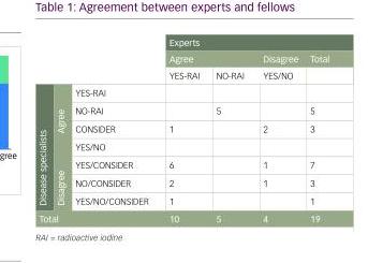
<table><thead><tr><td rowspan="2"></td><td rowspan="2"></td><td rowspan="2"></td><td colspan="4">Experts</td></tr><tr><td colspan="2">Agree</td><td rowspan="2">Disagree YES/NO</td><td rowspan="2">Total</td></tr><tr><td colspan="3"></td><td>YES-RAI</td><td>NO-RAI</td></tr></thead><tbody><tr><td rowspan="7">Disease specialists</td><td rowspan="3">Agree</td><td>YES-RAI</td><td></td><td></td><td></td><td></td></tr><tr><td>NO-RAI</td><td></td><td>5</td><td></td><td>5</td></tr><tr><td>CONSIDER</td><td>1</td><td></td><td>2</td><td>3</td></tr><tr><td rowspan="4">Disagree</td><td>YES/NO</td><td></td><td></td><td></td><td></td></tr><tr><td>YES/CONSIDER</td><td>6</td><td></td><td>1</td><td>7</td></tr><tr><td>NO/CONSIDER</td><td>2</td><td></td><td>1</td><td>3</td></tr><tr><td>YES/NO/CONSIDER</td><td>1</td><td></td><td></td><td>1</td></tr><tr><td colspan="3">Total</td><td>10</td><td>5</td><td>4</td><td>19</td></tr></tbody></table>